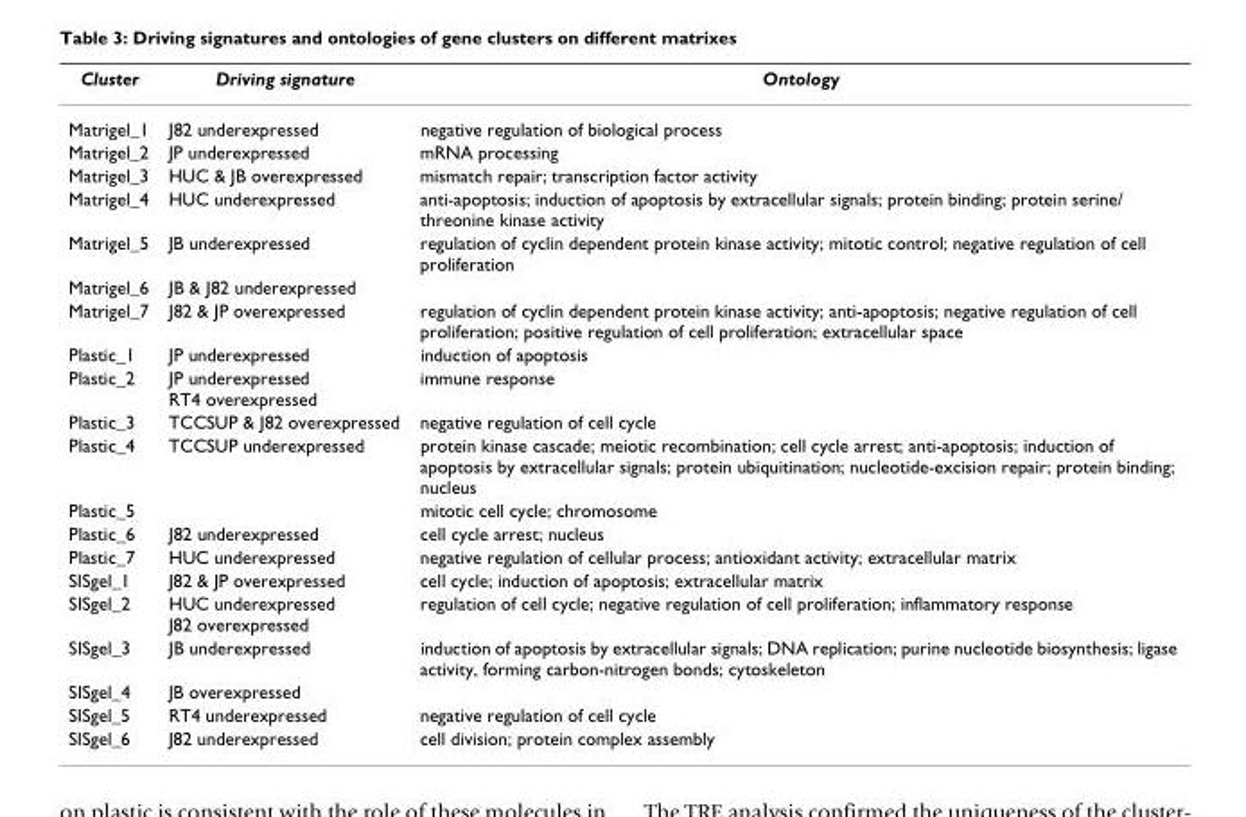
<table><thead><tr><td>Cluster</td><td>Driving signature</td><td>Ontology</td></tr></thead><tbody><tr><td>Matrigel_1</td><td>J82 underexpressed</td><td>negative regulation of biological process</td></tr><tr><td>Matrigel_2</td><td>JP underexpressed</td><td>mRNA processing</td></tr><tr><td>Matrigel_3</td><td>HUC &amp; JB overexpressed</td><td>mismatch repair; transcription factor activity</td></tr><tr><td>Matrigel_4</td><td>HUC underexpressed</td><td>anti-apoptosis; induction of apoptosis by extracellular signals; protein binding; protein serine/ threonine kinase activity</td></tr><tr><td>Matrigel_5</td><td>JB underexpressed</td><td>regulation of cyclin dependent protein kinase activity; mitotic control; negative regulation of cell proliferation</td></tr><tr><td>Matrigel_6</td><td>JB &amp; J82 underexpressed</td><td></td></tr><tr><td>Matrigel_7</td><td>J82 &amp; JP overexpressed</td><td>regulation of cyclin dependent protein kinase activity; anti-apoptosis; negative regulation of cell proliferation; positive regulation of cell proliferation; extracellular space</td></tr><tr><td>Plastic_1</td><td>JP underexpressed</td><td>induction of apoptosis</td></tr><tr><td>Plastic_2</td><td>JP underexpressed RT4 overexpressed</td><td>immune response</td></tr><tr><td>Plastic_3</td><td>TCCSUP &amp; J82 overexpressed</td><td>negative regulation of cell cycle</td></tr><tr><td>Plastic_4</td><td>TCCSUP underexpressed</td><td>protein kinase cascade; meiotic recombination; cell cycle arrest; anti-apoptosis; induction of apoptosis by extracellular signals; protein ubiquitination; nucleotide-excision repair; protein binding; nucleus</td></tr><tr><td>Plastic_5</td><td></td><td>mitotic cell cycle; chromosome</td></tr><tr><td>Plastic_6</td><td>J82 underexpressed</td><td>cell cycle arrest; nucleus</td></tr><tr><td>Plastic_7</td><td>HUC underexpressed</td><td>negative regulation of cellular process; antioxidant activity; extracellular matrix</td></tr><tr><td>SISgel_1</td><td>J82 &amp; JP overexpressed</td><td>cell cycle; induction of apoptosis; extracellular matrix</td></tr><tr><td>SISgel_2</td><td>HUC underexpressed J82 overexpressed</td><td>regulation of cell cycle; negative regulation of cell proliferation; inflammatory response</td></tr><tr><td>SISgel_3</td><td>JB underexpressed</td><td>induction of apoptosis by extracellular signals; DNA replication; purine nucleotide biosynthesis; ligase activity, forming carbon-nitrogen bonds; cytoskeleton</td></tr><tr><td>SISgel_4</td><td>JB overexpressed</td><td></td></tr><tr><td>SISgel_5</td><td>RT4 underexpressed</td><td>negative regulation of cell cycle</td></tr><tr><td>SISgel_6</td><td>J82 underexpressed</td><td>cell division; protein complex assembly</td></tr></tbody></table>